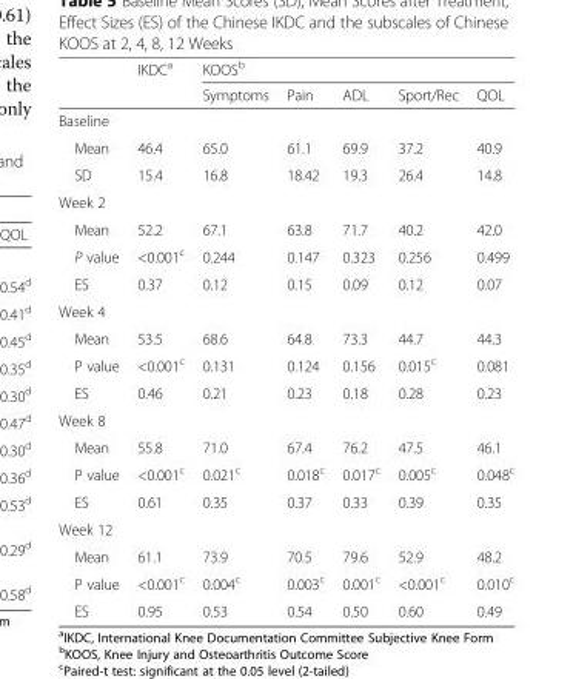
<table><thead><tr><td rowspan="2"></td><td rowspan="2">IKDC<sup>a</sup></td><td colspan="5">KOOS<sup>b</sup></td></tr><tr><td>Symptoms</td><td>Pain</td><td>ADL</td><td>Sport/Rec</td><td>QOL</td></tr></thead><tbody><tr><td colspan="7">Baseline</td></tr><tr><td>Mean</td><td>46.4</td><td>65.0</td><td>61.1</td><td>69.9</td><td>37.2</td><td>40.9</td></tr><tr><td>SD</td><td>15.4</td><td>16.8</td><td>18.42</td><td>19.3</td><td>26.4</td><td>14.8</td></tr><tr><td colspan="7">Week 2</td></tr><tr><td>Mean</td><td>52.2</td><td>67.1</td><td>63.8</td><td>71.7</td><td>40.2</td><td>42.0</td></tr><tr><td>P value</td><td>&lt;0.001<sup>c</sup></td><td>0.244</td><td>0.147</td><td>0.323</td><td>0.256</td><td>0.499</td></tr><tr><td>ES</td><td>0.37</td><td>0.12</td><td>0.15</td><td>0.09</td><td>0.12</td><td>0.07</td></tr><tr><td colspan="7">Week 4</td></tr><tr><td>Mean</td><td>53.5</td><td>68.6</td><td>64.8</td><td>73.3</td><td>44.7</td><td>44.3</td></tr><tr><td>P value</td><td>&lt;0.001<sup>c</sup></td><td>0.131</td><td>0.124</td><td>0.156</td><td>0.015<sup>c</sup></td><td>0.081</td></tr><tr><td>ES</td><td>0.46</td><td>0.21</td><td>0.23</td><td>0.18</td><td>0.28</td><td>0.23</td></tr><tr><td colspan="7">Week 8</td></tr><tr><td>Mean</td><td>55.8</td><td>71.0</td><td>67.4</td><td>76.2</td><td>47.5</td><td>46.1</td></tr><tr><td>P value</td><td>&lt;0.001<sup>c</sup></td><td>0.021<sup>c</sup></td><td>0.018<sup>c</sup></td><td>0.017<sup>c</sup></td><td>0.005<sup>c</sup></td><td>0.048<sup>c</sup></td></tr><tr><td>ES</td><td>0.61</td><td>0.35</td><td>0.37</td><td>0.33</td><td>0.39</td><td>0.35</td></tr><tr><td colspan="7">Week 12</td></tr><tr><td>Mean</td><td>61.1</td><td>73.9</td><td>70.5</td><td>79.6</td><td>52.9</td><td>48.2</td></tr><tr><td>P value</td><td>&lt;0.001<sup>c</sup></td><td>0.004<sup>c</sup></td><td>0.003<sup>c</sup></td><td>0.001<sup>c</sup></td><td>&lt;0.001<sup>c</sup></td><td>0.010<sup>c</sup></td></tr><tr><td>ES</td><td>0.95</td><td>0.53</td><td>0.54</td><td>0.50</td><td>0.60</td><td>0.49</td></tr></tbody></table>